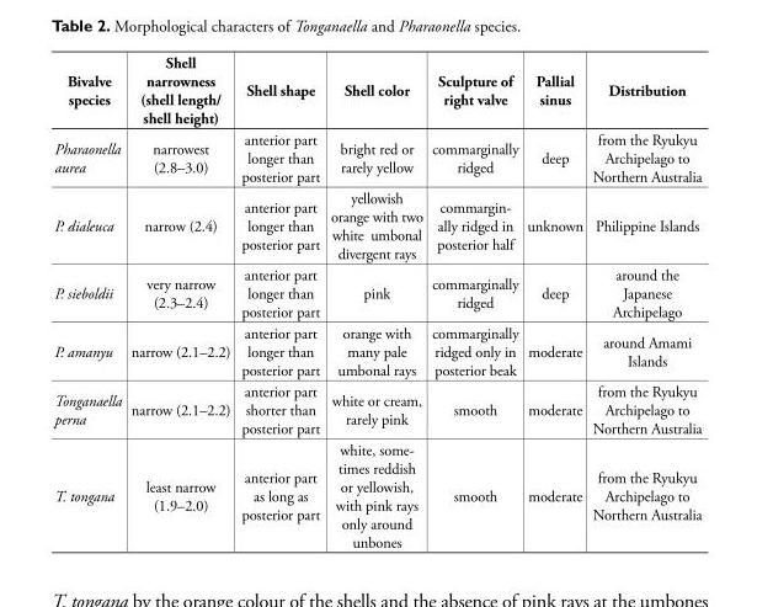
<table><thead><tr><td>Bivalve species</td><td>Shell narrowness (shell length/ shell height)</td><td>Shell shape</td><td>Shell color</td><td>Sculpture of right valve</td><td>Pallial sinus</td><td>Distribution</td></tr></thead><tbody><tr><td>Pharaonella aurea</td><td>narrowest (2.8–3.0)</td><td>anterior part longer than posterior part</td><td>bright red or rarely yellow</td><td>commarginally ridged</td><td>deep</td><td>from the Ryukyu Archipelago to Northern Australia</td></tr><tr><td>P. dialeuca</td><td>narrow (2.4)</td><td>anterior part longer than posterior part</td><td>yellowish orange with two white umbonal divergent rays</td><td>commargin- ally ridged in posterior half</td><td>unknown</td><td>Philippine Islands</td></tr><tr><td>P. sieboldii</td><td>very narrow (2.3–2.4)</td><td>anterior part longer than posterior part</td><td>pink</td><td>commarginally ridged</td><td>deep</td><td>around the Japanese Archipelago</td></tr><tr><td>P. amanyu</td><td>narrow (2.1–2.2)</td><td>anterior part longer than posterior part</td><td>orange with many pale umbonal rays</td><td>commarginally ridged only in posterior beak</td><td>moderate</td><td>around Amami Islands</td></tr><tr><td>Tonganaella perna</td><td>narrow (2.1–2.2)</td><td>anterior part shorter than posterior part</td><td>white or cream, rarely pink</td><td>smooth</td><td>moderate</td><td>from the Ryukyu Archipelago to Northern Australia</td></tr><tr><td>T. tongana</td><td>least narrow (1.9–2.0)</td><td>anterior part as long as posterior part</td><td>white, some- times reddish or yellowish, with pink rays only around unbones</td><td>smooth</td><td>moderate</td><td>from the Ryukyu Archipelago to Northern Australia</td></tr></tbody></table>